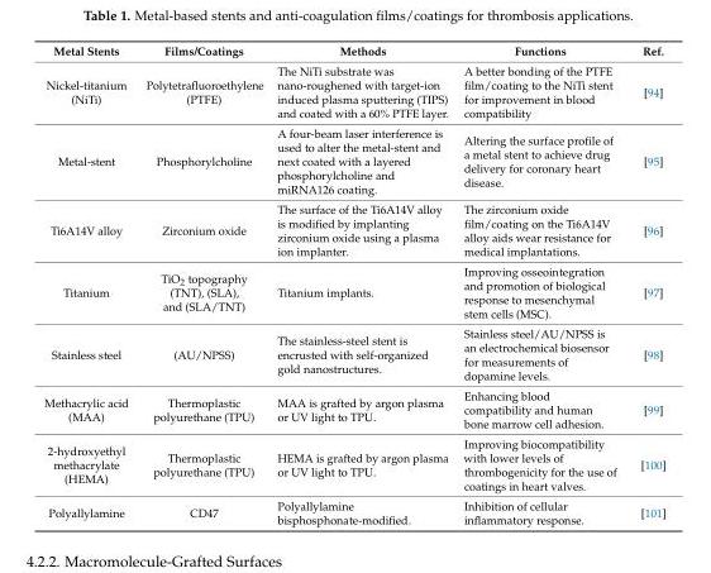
<table><thead><tr><td>Metal Stents</td><td>Films/Coatings</td><td>Methods</td><td>Functions</td><td>Ref.</td></tr></thead><tbody><tr><td>Nickel-titanium (NiTi)</td><td>Polytetrafluoroethylene (PTFE)</td><td>The NiTi substrate was nano-roughened with target-ion induced plasma sputtering (TIPS) and coated with a 60% PTFE layer.</td><td>A better bonding of the PTFE film/coating to the NiTi stent for improvement in blood compatibility</td><td>[94]</td></tr><tr><td>Metal-stent</td><td>Phosphorylcholine</td><td>A four-beam laser interference is used to alter the metal-stent and next coated with a layered phosphorylcholine and miRNA126 coating.</td><td>Altering the surface profile of a metal stent to achieve drug delivery for coronary heart disease.</td><td>[95]</td></tr><tr><td>Ti6A14V alloy</td><td>Zirconium oxide</td><td>The surface of the Ti6A14V alloy is modified by implanting zirconium oxide using a plasma ion implanter.</td><td>The zirconium oxide film/coating on the Ti6A14V alloy aids wear resistance for medical implantations.</td><td>[96]</td></tr><tr><td>Titanium</td><td>TiO<sub>2</sub> topography (TNT), (SLA), and (SLA/TNT)</td><td>Titanium implants.</td><td>Improving osseointegration and promotion of biological response to mesenchymal stem cells (MSC).</td><td>[97]</td></tr><tr><td>Stainless steel</td><td>(AU/NPSS)</td><td>The stainless-steel stent is encrusted with self-organized gold nanostructures.</td><td>Stainless steel/AU/NPSS is an electrochemical biosensor for measurements of dopamine levels.</td><td>[98]</td></tr><tr><td>Methacrylic acid (MAA)</td><td>Thermoplastic polyurethane (TPU)</td><td>MAA is grafted by argon plasma or UV light to TPU.</td><td>Enhancing blood compatibility and human bone marrow cell adhesion.</td><td>[99]</td></tr><tr><td>2-hydroxyethyl methacrylate (HEMA)</td><td>Thermoplastic polyurethane (TPU)</td><td>HEMA is grafted by argon plasma or UV light to TPU.</td><td>Improving biocompatibility with lower levels of thrombogenicity for the use of coatings in heart valves.</td><td>[100]</td></tr><tr><td>Polyallylamine</td><td>CD47</td><td>Polyallylamine bisphosphonate-modified.</td><td>Inhibition of cellular inflammatory response.</td><td>[101]</td></tr></tbody></table>